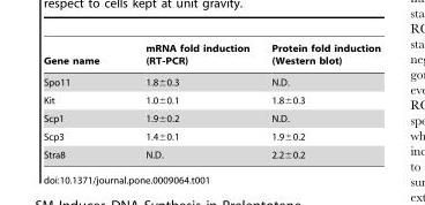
<table><thead><tr><td>Gene name</td><td>mRNA fold induction (RT-PCR)</td><td>Protein fold induction (Western blot)</td></tr></thead><tbody><tr><td>Spo11</td><td>1.8±0.3</td><td>N.D.</td></tr><tr><td>Kit</td><td>1.0±0.1</td><td>1.8±0.3</td></tr><tr><td>Scp1</td><td>1.9±0.2</td><td>N.D.</td></tr><tr><td>Scp3</td><td>1.4±0.1</td><td>1.9±0.2</td></tr><tr><td>Stra8</td><td>N.D.</td><td>2.2±0.2</td></tr></tbody></table>